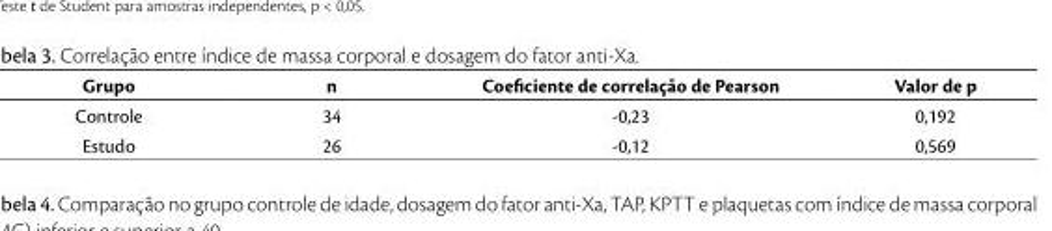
<table><thead><tr><td>Grupo</td><td>n</td><td>Coeficiente de correlação de Pearson</td><td>Valor de p</td></tr></thead><tbody><tr><td>Controle</td><td>34</td><td>-0,23</td><td>0,192</td></tr><tr><td>Estudo</td><td>26</td><td>-0,12</td><td>0,569</td></tr></tbody></table>